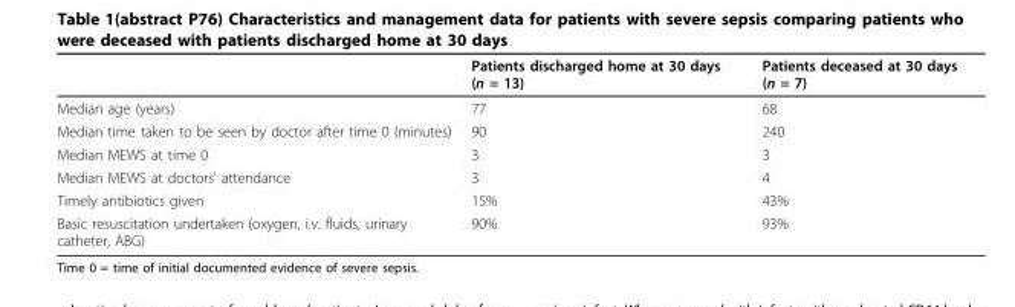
<table><thead><tr><td></td><td>Patients discharged home at 30 days (n = 13)</td><td>Patients deceased at 30 days (n = 7)</td></tr></thead><tbody><tr><td>Median age (years)</td><td>77</td><td>68</td></tr><tr><td>Median time taken to be seen by doctor after time 0 (minutes)</td><td>90</td><td>240</td></tr><tr><td>Median MEWS at time 0</td><td>3</td><td>3</td></tr><tr><td>Median MEWS at doctors’ attendance</td><td>3</td><td>4</td></tr><tr><td>Timely antibiotics given</td><td>15%</td><td>43%</td></tr><tr><td>Basic resuscitation undertaken (oxygen, i.v. fluids, urinary catheter, ABG)</td><td>90%</td><td>93%</td></tr></tbody></table>